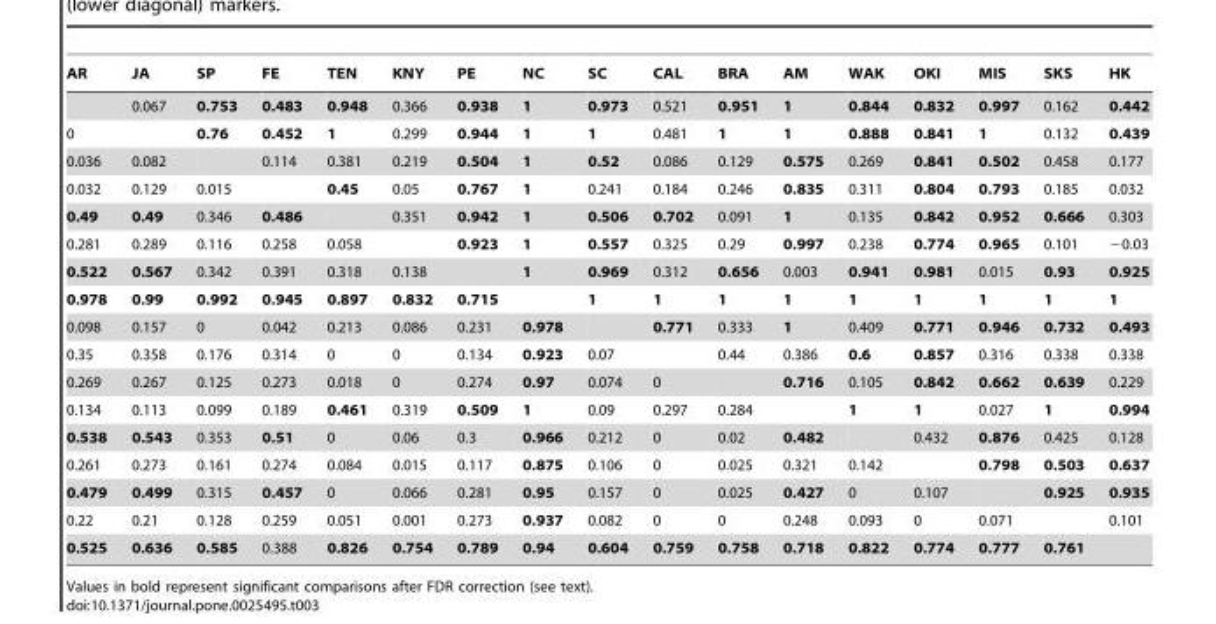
<table><thead><tr><td>AR</td><td>JA</td><td>SP</td><td>FE</td><td>TEN</td><td>KNY</td><td>PE</td><td>NC</td><td>SC</td><td>CAL</td><td>BRA</td><td>AM</td><td>WAK</td><td>OKI</td><td>MIS</td><td>SKS</td><td>HK</td></tr></thead><tbody><tr><td></td><td>0.067</td><td>0.753</td><td>0.483</td><td>0.948</td><td>0.366</td><td>0.938</td><td>1</td><td>0.973</td><td>0.521</td><td>0.951</td><td>1</td><td>0.844</td><td>0.832</td><td>0.997</td><td>0.162</td><td>0.442</td></tr><tr><td>0</td><td></td><td>0.76</td><td>0.452</td><td>1</td><td>0.299</td><td>0.944</td><td>1</td><td>1</td><td>0.481</td><td>1</td><td>1</td><td>0.888</td><td>0.841</td><td>1</td><td>0.132</td><td>0.439</td></tr><tr><td>0.036</td><td>0.082</td><td></td><td>0.114</td><td>0.381</td><td>0.219</td><td>0.504</td><td>1</td><td>0.52</td><td>0.086</td><td>0.129</td><td>0.575</td><td>0.269</td><td>0.841</td><td>0.502</td><td>0.458</td><td>0.177</td></tr><tr><td>0.032</td><td>0.129</td><td>0.015</td><td></td><td>0.45</td><td>0.05</td><td>0.767</td><td>1</td><td>0.241</td><td>0.184</td><td>0.246</td><td>0.835</td><td>0.311</td><td>0.804</td><td>0.793</td><td>0.185</td><td>0.032</td></tr><tr><td>0.49</td><td>0.49</td><td>0.346</td><td>0.486</td><td></td><td>0.351</td><td>0.942</td><td>1</td><td>0.506</td><td>0.702</td><td>0.091</td><td>1</td><td>0.135</td><td>0.842</td><td>0.952</td><td>0.666</td><td>0.303</td></tr><tr><td>0.281</td><td>0.289</td><td>0.116</td><td>0.258</td><td>0.058</td><td></td><td>0.923</td><td>1</td><td>0.557</td><td>0.325</td><td>0.29</td><td>0.997</td><td>0.238</td><td>0.774</td><td>0.965</td><td>0.101</td><td>−0.03</td></tr><tr><td>0.522</td><td>0.567</td><td>0.342</td><td>0.391</td><td>0.318</td><td>0.138</td><td></td><td>1</td><td>0.969</td><td>0.312</td><td>0.656</td><td>0.003</td><td>0.941</td><td>0.981</td><td>0.015</td><td>0.93</td><td>0.925</td></tr><tr><td>0.978</td><td>0.99</td><td>0.992</td><td>0.945</td><td>0.897</td><td>0.832</td><td>0.715</td><td></td><td>1</td><td>1</td><td>1</td><td>1</td><td>1</td><td>1</td><td>1</td><td>1</td><td>1</td></tr><tr><td>0.098</td><td>0.157</td><td>0</td><td>0.042</td><td>0.213</td><td>0.086</td><td>0.231</td><td>0.978</td><td></td><td>0.771</td><td>0.333</td><td>1</td><td>0.409</td><td>0.771</td><td>0.946</td><td>0.732</td><td>0.493</td></tr><tr><td>0.35</td><td>0.358</td><td>0.176</td><td>0.314</td><td>0</td><td>0</td><td>0.134</td><td>0.923</td><td>0.07</td><td></td><td>0.44</td><td>0.386</td><td>0.6</td><td>0.857</td><td>0.316</td><td>0.338</td><td>0.338</td></tr><tr><td>0.269</td><td>0.267</td><td>0.125</td><td>0.273</td><td>0.018</td><td>0</td><td>0.274</td><td>0.97</td><td>0.074</td><td>0</td><td></td><td>0.716</td><td>0.105</td><td>0.842</td><td>0.662</td><td>0.639</td><td>0.229</td></tr><tr><td>0.134</td><td>0.113</td><td>0.099</td><td>0.189</td><td>0.461</td><td>0.319</td><td>0.509</td><td>1</td><td>0.09</td><td>0.297</td><td>0.284</td><td></td><td>1</td><td>1</td><td>0.027</td><td>1</td><td>0.994</td></tr><tr><td>0.538</td><td>0.543</td><td>0.353</td><td>0.51</td><td>0</td><td>0.06</td><td>0.3</td><td>0.966</td><td>0.212</td><td>0</td><td>0.02</td><td>0.482</td><td></td><td>0.432</td><td>0.876</td><td>0.425</td><td>0.128</td></tr><tr><td>0.261</td><td>0.273</td><td>0.161</td><td>0.274</td><td>0.084</td><td>0.015</td><td>0.117</td><td>0.875</td><td>0.106</td><td>0</td><td>0.025</td><td>0.321</td><td>0.142</td><td></td><td>0.798</td><td>0.503</td><td>0.637</td></tr><tr><td>0.479</td><td>0.499</td><td>0.315</td><td>0.457</td><td>0</td><td>0.066</td><td>0.281</td><td>0.95</td><td>0.157</td><td>0</td><td>0.025</td><td>0.427</td><td>0</td><td>0.107</td><td></td><td>0.925</td><td>0.935</td></tr><tr><td>0.22</td><td>0.21</td><td>0.128</td><td>0.259</td><td>0.051</td><td>0.001</td><td>0.273</td><td>0.937</td><td>0.082</td><td>0</td><td>0</td><td>0.248</td><td>0.093</td><td>0</td><td>0.071</td><td></td><td>0.101</td></tr><tr><td>0.525</td><td>0.636</td><td>0.585</td><td>0.388</td><td>0.826</td><td>0.754</td><td>0.789</td><td>0.94</td><td>0.604</td><td>0.759</td><td>0.758</td><td>0.718</td><td>0.822</td><td>0.774</td><td>0.777</td><td>0.761</td><td></td></tr></tbody></table>